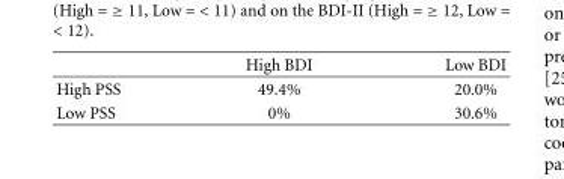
<table><thead><tr><td></td><td>High BDI</td><td>Low BDI</td></tr></thead><tbody><tr><td>High PSS</td><td>49.4%</td><td>20.0%</td></tr><tr><td>Low PSS</td><td>0%</td><td>30.6%</td></tr></tbody></table>